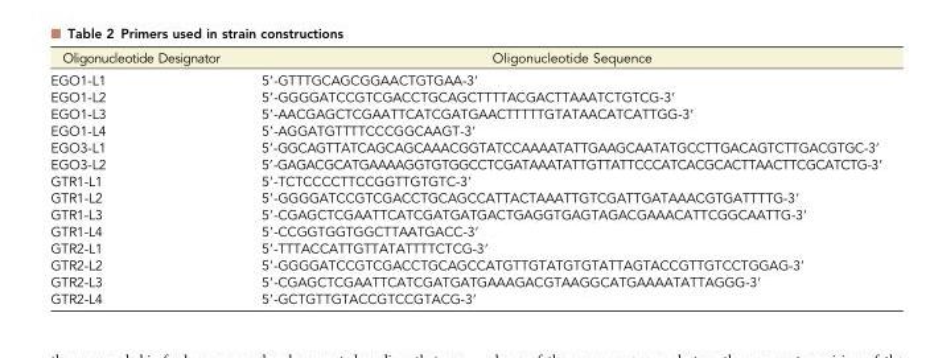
<table><thead><tr><td>Oligonucleotide Designator</td><td>Oligonucleotide Sequence</td></tr></thead><tbody><tr><td>EGO1-L1</td><td>5′-GTTTGCAGCGGAACTGTGAA-3′</td></tr><tr><td>EGO1-L2</td><td>5′-GGGGATCCGTCGACCTGCAGCTTTTACGACTTAAATCTGTCG-3′</td></tr><tr><td>EGO1-L3</td><td>5′-AACGAGCTCGAATTCATCGATGAACTTTTTGTATAACATCATTGG-3′</td></tr><tr><td>EGO1-L4</td><td>5′-AGGATGTTTTCCCGGCAAGT-3′</td></tr><tr><td>EGO3-L1</td><td>5′-GGCAGTTATCAGCAGCAAACGGTATCCAAAATATTGAAGCAATATGCCTTGACAGTCTTGACGTGC-3′</td></tr><tr><td>EGO3-L2</td><td>5′-GAGACGCATGAAAAGGTGTGGCCTCGATAAATATTGTTATTCCCATCACGCACTTAACTTCGCATCTG-3′</td></tr><tr><td>GTR1-L1</td><td>5′-TCTCCCCTTCCGGTTGTGTC-3′</td></tr><tr><td>GTR1-L2</td><td>5′-GGGGATCCGTCGACCTGCAGCCATTACTAAATTGTCGATTGATAAACGTGATTTTG-3′</td></tr><tr><td>GTR1-L3</td><td>5′-CGAGCTCGAATTCATCGATGATGACTGAGGTGAGTAGACGAAACATTCGGCAATTG-3′</td></tr><tr><td>GTR1-L4</td><td>5′-CCGGTGGTGGCTTAATGACC-3′</td></tr><tr><td>GTR2-L1</td><td>5′-TTTACCATTGTTATATTTTCTCG-3′</td></tr><tr><td>GTR2-L2</td><td>5′-GGGGATCCGTCGACCTGCAGCCATGTTGTATGTGTATTAGTACCGTTGTCCTGGAG-3′</td></tr><tr><td>GTR2-L3</td><td>5′-CGAGCTCGAATTCATCGATGATGAAAGACGTAAGGCATGAAAATATTAGGG-3′</td></tr><tr><td>GTR2-L4</td><td>5′-GCTGTTGTACCGTCCGTACG-3′</td></tr></tbody></table>